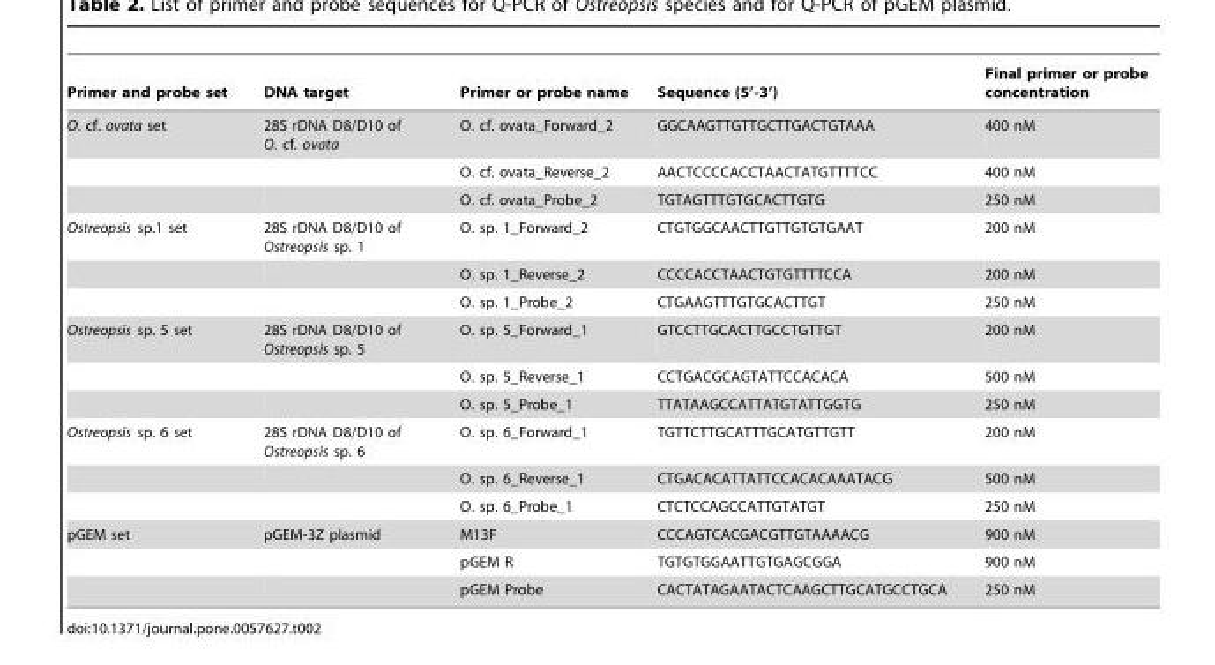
<table><thead><tr><td>Primer and probe set</td><td>DNA target</td><td>Primer or probe name</td><td>Sequence (5’-3’)</td><td>Final primer or probe concentration</td></tr></thead><tbody><tr><td rowspan="3">O. cf. ovata set</td><td>28S rDNA D8/D10 of O. cf. ovata</td><td>O. cf. ovata_Forward_2</td><td>GGCAAGTTGTTGCTTGACTGTAAA</td><td>400 nM</td></tr><tr><td></td><td>O. cf. ovata_Reverse_2</td><td>AACTCCCCACCTAACTATGTTTTCC</td><td>400 nM</td></tr><tr><td></td><td>O. cf. ovata_Probe_2</td><td>TGTAGTTTGTGCACTTGTG</td><td>250 nM</td></tr><tr><td rowspan="3">Ostreopsis sp.1 set</td><td>28S rDNA D8/D10 of Ostreopsis sp. 1</td><td>O. sp. 1_Forward_2</td><td>CTGTGGCAACTTGTTGTGTGAAT</td><td>200 nM</td></tr><tr><td></td><td>O. sp. 1_Reverse_2</td><td>CCCCACCTAACTGTGTTTTCCA</td><td>200 nM</td></tr><tr><td></td><td>O. sp. 1_Probe_2</td><td>CTGAAGTTTGTGCACTTGT</td><td>250 nM</td></tr><tr><td rowspan="3">Ostreopsis sp. 5 set</td><td>28S rDNA D8/D10 of Ostreopsis sp. 5</td><td>O. sp. 5_Forward_1</td><td>GTCCTTGCACTTGCCTGTTGT</td><td>200 nM</td></tr><tr><td></td><td>O. sp. 5_Reverse_1</td><td>CCTGACGCAGTATTCCACACA</td><td>500 nM</td></tr><tr><td></td><td>O. sp. 5_Probe_1</td><td>TTATAAGCCATTATGTATTGGTG</td><td>250 nM</td></tr><tr><td rowspan="3">Ostreopsis sp. 6 set</td><td>28S rDNA D8/D10 of Ostreopsis sp. 6</td><td>O. sp. 6_Forward_1</td><td>TGTTCTTGCATTTGCATGTTGTT</td><td>200 nM</td></tr><tr><td></td><td>O. sp. 6_Reverse_1</td><td>CTGACACATTATTCCACACAAATACG</td><td>500 nM</td></tr><tr><td></td><td>O. sp. 6_Probe_1</td><td>CTCTCCAGCCATTGTATGT</td><td>250 nM</td></tr><tr><td rowspan="3">pGEM set</td><td>pGEM-3Z plasmid</td><td>M13F</td><td>CCCAGTCACGACGTTGTAAAACG</td><td>900 nM</td></tr><tr><td></td><td>pGEM R</td><td>TGTGTGGAATTGTGAGCGGA</td><td>900 nM</td></tr><tr><td></td><td>pGEM Probe</td><td>CACTATAGAATACTCAAGCTTGCATGCCTGCA</td><td>250 nM</td></tr></tbody></table>